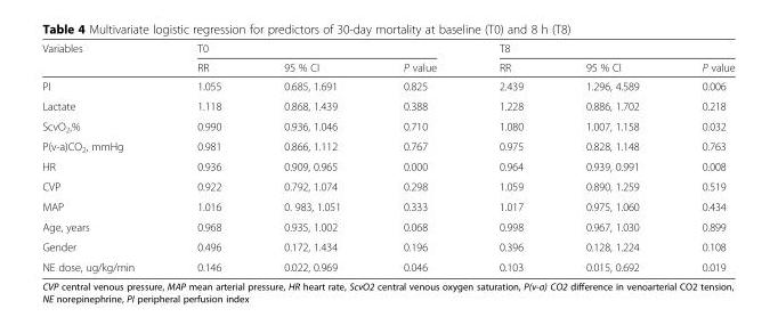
<table><thead><tr><td rowspan="2">Variables</td><td colspan="3">T0</td><td colspan="3">T8</td></tr><tr><td>RR</td><td>95 % CI</td><td>P value</td><td>RR</td><td>95 % CI</td><td>P value</td></tr></thead><tbody><tr><td>PI</td><td>1.055</td><td>0.685, 1.691</td><td>0.825</td><td>2.439</td><td>1.296, 4.589</td><td>0.006</td></tr><tr><td>Lactate</td><td>1.118</td><td>0.868, 1.439</td><td>0.388</td><td>1.228</td><td>0.886, 1.702</td><td>0.218</td></tr><tr><td>ScvO<sub>2</sub>,%</td><td>0.990</td><td>0.936, 1.046</td><td>0.710</td><td>1.080</td><td>1.007, 1.158</td><td>0.032</td></tr><tr><td>P(v-a)CO<sub>2</sub>, mmHg</td><td>0.981</td><td>0.866, 1.112</td><td>0.767</td><td>0.975</td><td>0.828, 1.148</td><td>0.763</td></tr><tr><td>HR</td><td>0.936</td><td>0.909, 0.965</td><td>0.000</td><td>0.964</td><td>0.939, 0.991</td><td>0.008</td></tr><tr><td>CVP</td><td>0.922</td><td>0.792, 1.074</td><td>0.298</td><td>1.059</td><td>0.890, 1.259</td><td>0.519</td></tr><tr><td>MAP</td><td>1.016</td><td>0. 983, 1.051</td><td>0.333</td><td>1.017</td><td>0.975, 1.060</td><td>0.434</td></tr><tr><td>Age, years</td><td>0.968</td><td>0.935, 1.002</td><td>0.068</td><td>0.998</td><td>0.967, 1.030</td><td>0.899</td></tr><tr><td>Gender</td><td>0.496</td><td>0.172, 1.434</td><td>0.196</td><td>0.396</td><td>0.128, 1.224</td><td>0.108</td></tr><tr><td>NE dose, ug/kg/min</td><td>0.146</td><td>0.022, 0.969</td><td>0.046</td><td>0.103</td><td>0.015, 0.692</td><td>0.019</td></tr></tbody></table>